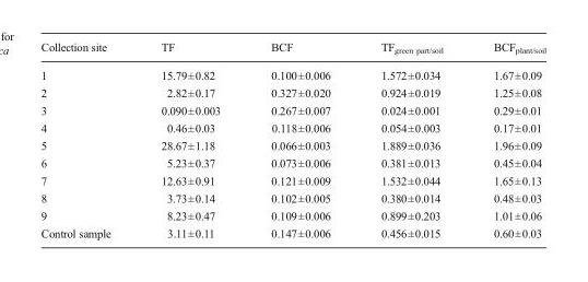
<table><thead><tr><td>Collection site</td><td>TF</td><td>BCF</td><td>TF<sub>green part/soil</sub></td><td>BCF<sub>plant/soil</sub></td></tr></thead><tbody><tr><td>1</td><td>15.79±0.82</td><td>0.100±0.006</td><td>1.572±0.034</td><td>1.67±0.09</td></tr><tr><td>2</td><td>2.82±0.17</td><td>0.327±0.020</td><td>0.924±0.019</td><td>1.25±0.08</td></tr><tr><td>3</td><td>0.090±0.003</td><td>0.267±0.007</td><td>0.024±0.001</td><td>0.29±0.01</td></tr><tr><td>4</td><td>0.46±0.03</td><td>0.118±0.006</td><td>0.054±0.003</td><td>0.17±0.01</td></tr><tr><td>5</td><td>28.67±1.18</td><td>0.066±0.003</td><td>1.889±0.036</td><td>1.96±0.09</td></tr><tr><td>6</td><td>5.23±0.37</td><td>0.073±0.006</td><td>0.381±0.013</td><td>0.45±0.04</td></tr><tr><td>7</td><td>12.63±0.91</td><td>0.121±0.009</td><td>1.532±0.044</td><td>1.65±0.13</td></tr><tr><td>8</td><td>3.73±0.14</td><td>0.102±0.005</td><td>0.380±0.014</td><td>0.48±0.03</td></tr><tr><td>9</td><td>8.23±0.47</td><td>0.109±0.006</td><td>0.899±0.203</td><td>1.01±0.06</td></tr><tr><td>Control sample</td><td>3.11±0.11</td><td>0.147±0.006</td><td>0.456±0.015</td><td>0.60±0.03</td></tr></tbody></table>